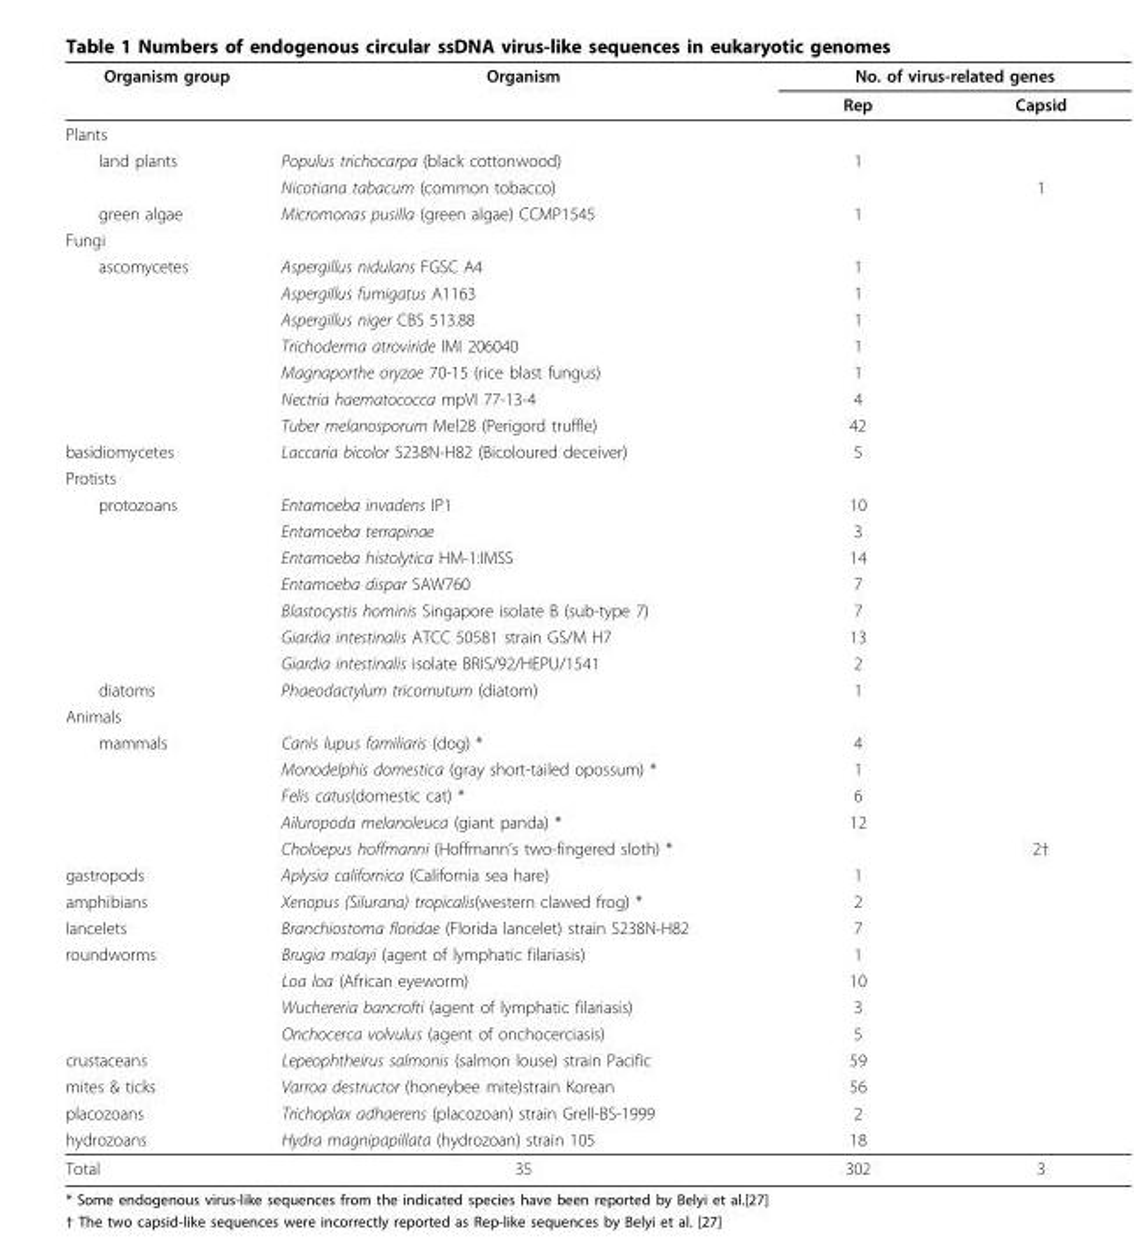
<table><thead><tr><td rowspan="2">Organism group</td><td rowspan="2">Organism</td><td colspan="2">No. of virus-related genes</td></tr><tr><td>Rep</td><td>Capsid</td></tr></thead><tbody><tr><td colspan="4">Plants</td></tr><tr><td rowspan="2">land plants</td><td>Populus trichocarpa (black cottonwood)</td><td>1</td><td></td></tr><tr><td>Nicotiana tabacum (common tobacco)</td><td></td><td>1</td></tr><tr><td>green algae</td><td>Micromonas pusilla (green algae) CCMP1545</td><td>1</td><td></td></tr><tr><td colspan="4">Fungi</td></tr><tr><td rowspan="7">ascomycetes</td><td>Aspergillus nidulans FGSC A4</td><td>1</td><td></td></tr><tr><td>Aspergillus fumigatus A1163</td><td>1</td><td></td></tr><tr><td>Aspergillus niger CBS 513.88</td><td>1</td><td></td></tr><tr><td>Trichoderma atroviride IMI 206040</td><td>1</td><td></td></tr><tr><td>Magnaporthe oryzae 70-15 (rice blast fungus)</td><td>1</td><td></td></tr><tr><td>Nectria haematococca mpVI 77-13-4</td><td>4</td><td></td></tr><tr><td>Tuber melanosporum Mel28 (Perigord truffle)</td><td>42</td><td></td></tr><tr><td>basidiomycetes</td><td>Laccaria bicolor S238N-H82 (Bicoloured deceiver)</td><td>5</td><td></td></tr><tr><td colspan="4">Protists</td></tr><tr><td rowspan="7">protozoans</td><td>Entamoeba invadens IP1</td><td>10</td><td></td></tr><tr><td>Entamoeba terrapinae</td><td>3</td><td></td></tr><tr><td>Entamoeba histolytica HM-1:IMSS</td><td>14</td><td></td></tr><tr><td>Entamoeba dispar SAW760</td><td>7</td><td></td></tr><tr><td>Blastocystis hominis Singapore isolate B (sub-type 7)</td><td>7</td><td></td></tr><tr><td>Giardia intestinalis ATCC 50581 strain GS/M H7</td><td>13</td><td></td></tr><tr><td>Giardia intestinalis isolate BRIS/92/HEPU/1541</td><td>2</td><td></td></tr><tr><td>diatoms</td><td>Phaeodactylum tricornutum (diatom)</td><td>1</td><td></td></tr><tr><td colspan="4">Animals</td></tr><tr><td rowspan="5">mammals</td><td>Canis lupus familiaris (dog) *</td><td>4</td><td></td></tr><tr><td>Monodelphis domestica (gray short-tailed opossum) *</td><td>1</td><td></td></tr><tr><td>Felis catus(domestic cat) *</td><td>6</td><td></td></tr><tr><td>Ailuropoda melanoleuca (giant panda) *</td><td>12</td><td></td></tr><tr><td>Choloepus hoffmanni (Hoffmann’s two-fingered sloth) *</td><td></td><td>2†</td></tr><tr><td>gastropods</td><td>Aplysia californica (California sea hare)</td><td>1</td><td></td></tr><tr><td>amphibians</td><td>Xenopus (Silurana) tropicalis(western clawed frog) *</td><td>2</td><td></td></tr><tr><td>lancelets</td><td>Branchiostoma floridae (Florida lancelet) strain S238N-H82</td><td>7</td><td></td></tr><tr><td rowspan="4">roundworms</td><td>Brugia malayi (agent of lymphatic filariasis)</td><td>1</td><td></td></tr><tr><td>Loa loa (African eyeworm)</td><td>10</td><td></td></tr><tr><td>Wuchereria bancrofti (agent of lymphatic filariasis)</td><td>3</td><td></td></tr><tr><td>Onchocerca volvulus (agent of onchocerciasis)</td><td>5</td><td></td></tr><tr><td>crustaceans</td><td>Lepeophtheirus salmonis (salmon louse) strain Pacific</td><td>59</td><td></td></tr><tr><td>mites &amp; ticks</td><td>Varroa destructor (honeybee mite)strain Korean</td><td>56</td><td></td></tr><tr><td>placozoans</td><td>Trichoplax adhaerens (placozoan) strain Grell-BS-1999</td><td>2</td><td></td></tr><tr><td>hydrozoans</td><td>Hydra magnipapillata (hydrozoan) strain 105</td><td>18</td><td></td></tr><tr><td>Total</td><td>35</td><td>302</td><td>3</td></tr></tbody></table>